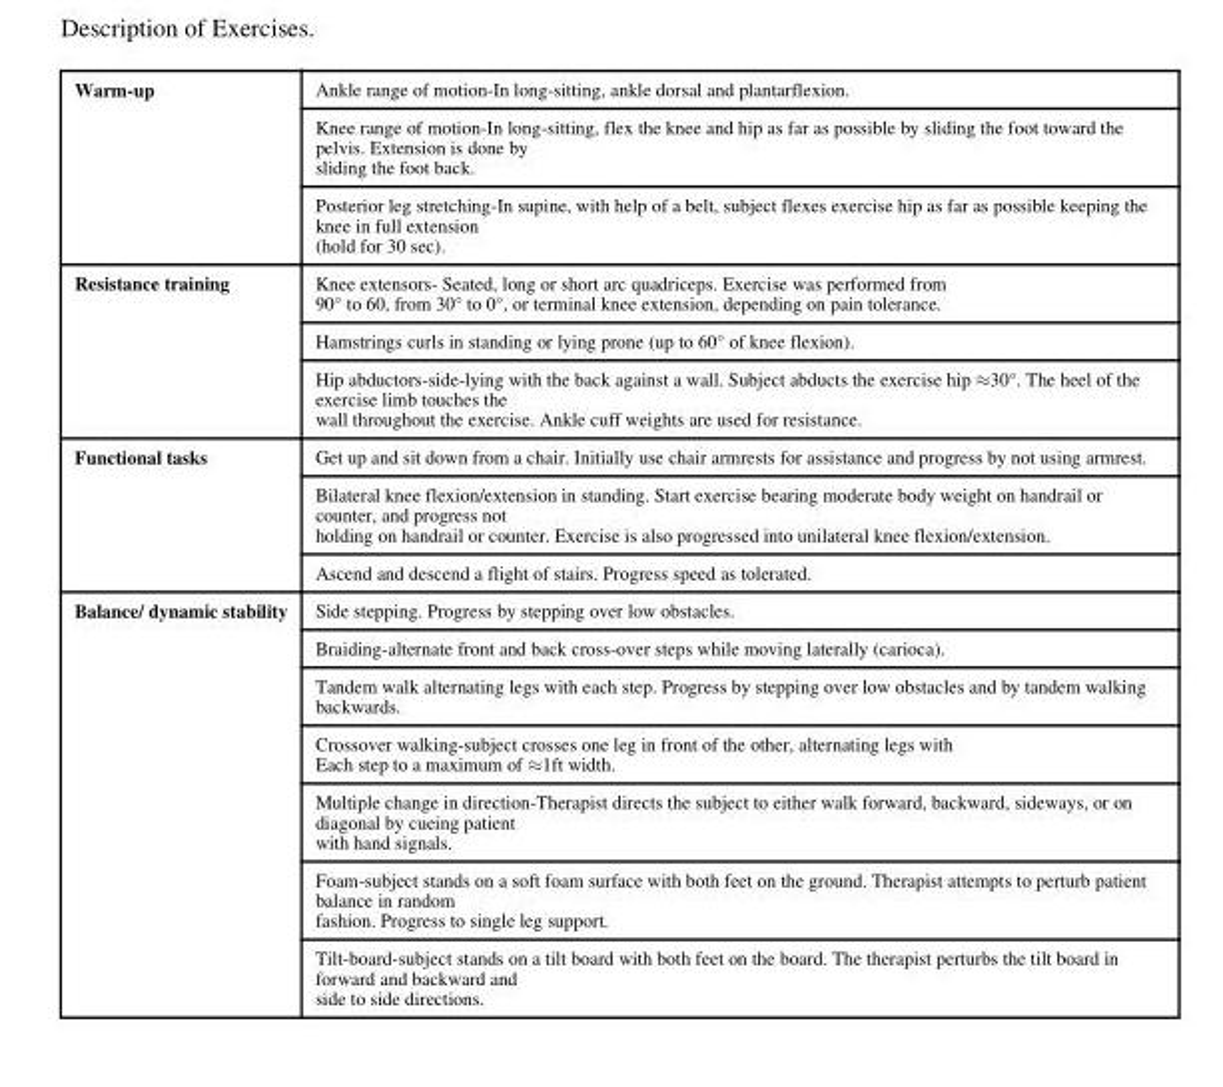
<table><tbody><tr><td rowspan="3">Warm-up</td><td>Ankle range of motion-In long-sitting, ankle dorsal and plantarflexion.</td></tr><tr><td>Knee range of motion-In long-sitting, flex the knee and hip as far as possible by sliding the foot toward the pelvis. Extension is done by sliding the foot back.</td></tr><tr><td>Posterior leg stretching-In supine, with help of a belt, subject flexes exercise hip as far as possible keeping the knee in full extension (hold for 30 sec).</td></tr><tr><td rowspan="3">Resistance training</td><td>Knee extensors- Seated, long or short arc quadriceps. Exercise was performed from 90° to 60, from 30° to 0°, or terminal knee extension, depending on pain tolerance.</td></tr><tr><td>Hamstrings curls in standing or lying prone (up to 60° of knee flexion).</td></tr><tr><td>Hip abductors-side-lying with the back against a wall. Subject abducts the exercise hip ≈30°. The heel of the exercise limb touches the wall throughout the exercise. Ankle cuff weights are used for resistance.</td></tr><tr><td rowspan="3">Functional tasks</td><td>Get up and sit down from a chair. Initially use chair armrests for assistance and progress by not using armrest.</td></tr><tr><td>Bilateral knee flexion/extension in standing. Start exercise bearing moderate body weight on handrail or counter, and progress not holding on handrail or counter. Exercise is also progressed into unilateral knee flexion/extension.</td></tr><tr><td>Ascend and descend a flight of stairs. Progress speed as tolerated.</td></tr><tr><td rowspan="7">Balance/ dynamic stability</td><td>Side stepping. Progress by stepping over low obstacles.</td></tr><tr><td>Braiding-alternate front and back cross-over steps while moving laterally (carioca).</td></tr><tr><td>Tandem walk alternating legs with each step. Progress by stepping over low obstacles and by tandem walking backwards.</td></tr><tr><td>Crossover walking-subject crosses one leg in front of the other, alternating legs with Each step to a maximum of ≈1ft width.</td></tr><tr><td>Multiple change in direction-Therapist directs the subject to either walk forward, backward, sideways, or on diagonal by cueing patient with hand signals.</td></tr><tr><td>Foam-subject stands on a soft foam surface with both feet on the ground. Therapist attempts to perturb patient balance in random fashion. Progress to single leg support.</td></tr><tr><td>Tilt-board-subject stands on a tilt board with both feet on the board. The therapist perturbs the tilt board in forward and backward and side to side directions.</td></tr></tbody></table>